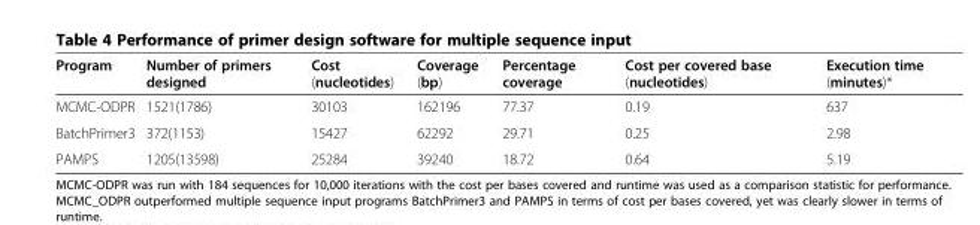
<table><thead><tr><td>Program</td><td>Number of primers designed</td><td>Cost (nucleotides)</td><td>Coverage (bp)</td><td>Percentage coverage</td><td>Cost per covered base (nucleotides)</td><td>Execution time (minutes)*</td></tr></thead><tbody><tr><td>MCMC-ODPR</td><td>1521(1786)</td><td>30103</td><td>162196</td><td>77.37</td><td>0.19</td><td>637</td></tr><tr><td>BatchPrimer3</td><td>372(1153)</td><td>15427</td><td>62292</td><td>29.71</td><td>0.25</td><td>2.98</td></tr><tr><td>PAMPS</td><td>1205(13598)</td><td>25284</td><td>39240</td><td>18.72</td><td>0.64</td><td>5.19</td></tr></tbody></table>